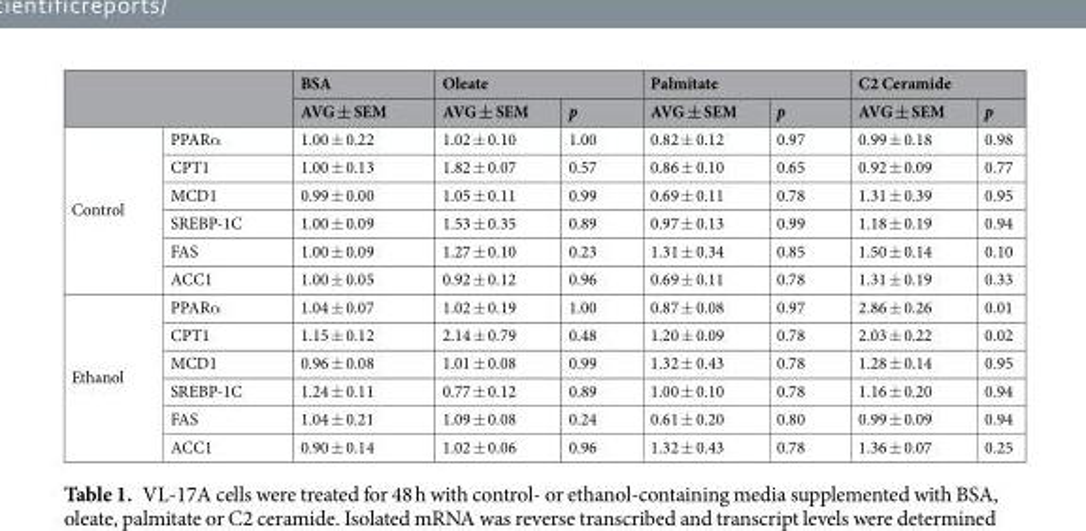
<table><thead><tr><td rowspan="2"></td><td rowspan="2"></td><td rowspan="2">BSA AVG ± SEM</td><td colspan="2">Oleate</td><td colspan="2">Palmitate</td><td colspan="2">C2 Ceramide</td></tr><tr><td>AVG ± SEM</td><td>p</td><td>AVG ± SEM</td><td>p</td><td>AVG ± SEM</td><td>p</td></tr></thead><tbody><tr><td rowspan="6">Control</td><td>PPARα</td><td>1.00 ± 0.22</td><td>1.02 ± 0.10</td><td>1.00</td><td>0.82 ± 0.12</td><td>0.97</td><td>0.99 ± 0.18</td><td>0.98</td></tr><tr><td>CPT1</td><td>1.00 ± 0.13</td><td>1.82 ± 0.07</td><td>0.57</td><td>0.86 ± 0.10</td><td>0.65</td><td>0.92 ± 0.09</td><td>0.77</td></tr><tr><td>MCD1</td><td>0.99 ± 0.00</td><td>1.05 ± 0.11</td><td>0.99</td><td>0.69 ± 0.11</td><td>0.78</td><td>1.31 ± 0.39</td><td>0.95</td></tr><tr><td>SREBP-1C</td><td>1.00 ± 0.09</td><td>1.53 ± 0.35</td><td>0.89</td><td>0.97 ± 0.13</td><td>0.99</td><td>1.18 ± 0.19</td><td>0.94</td></tr><tr><td>FAS</td><td>1.00 ± 0.09</td><td>1.27 ± 0.10</td><td>0.23</td><td>1.31 ± 0.34</td><td>0.85</td><td>1.50 ± 0.14</td><td>0.10</td></tr><tr><td>ACC1</td><td>1.00 ± 0.05</td><td>0.92 ± 0.12</td><td>0.96</td><td>0.69 ± 0.11</td><td>0.78</td><td>1.31 ± 0.19</td><td>0.33</td></tr><tr><td rowspan="6">Ethanol</td><td>PPARα</td><td>1.04 ± 0.07</td><td>1.02 ± 0.19</td><td>1.00</td><td>0.87 ± 0.08</td><td>0.97</td><td>2.86 ± 0.26</td><td>0.01</td></tr><tr><td>CPT1</td><td>1.15 ± 0.12</td><td>2.14 ± 0.79</td><td>0.48</td><td>1.20 ± 0.09</td><td>0.78</td><td>2.03 ± 0.22</td><td>0.02</td></tr><tr><td>MCD1</td><td>0.96 ± 0.08</td><td>1.01 ± 0.08</td><td>0.99</td><td>1.32 ± 0.43</td><td>0.78</td><td>1.28 ± 0.14</td><td>0.95</td></tr><tr><td>SREBP-1C</td><td>1.24 ± 0.11</td><td>0.77 ± 0.12</td><td>0.89</td><td>1.00 ± 0.10</td><td>0.78</td><td>1.16 ± 0.20</td><td>0.94</td></tr><tr><td>FAS</td><td>1.04 ± 0.21</td><td>1.09 ± 0.08</td><td>0.24</td><td>0.61 ± 0.20</td><td>0.80</td><td>0.99 ± 0.09</td><td>0.94</td></tr><tr><td>ACC1</td><td>0.90 ± 0.14</td><td>1.02 ± 0.06</td><td>0.96</td><td>1.32 ± 0.43</td><td>0.78</td><td>1.36 ± 0.07</td><td>0.25</td></tr></tbody></table>